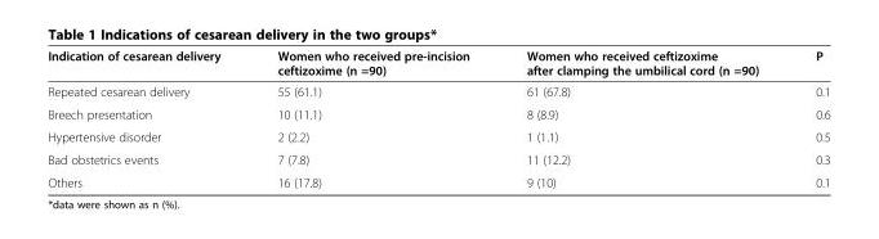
<table><thead><tr><td>Indication of cesarean delivery</td><td>Women who received pre-incision ceftizoxime (n =90)</td><td>Women who received ceftizoxime after clamping the umbilical cord (n =90)</td><td>P</td></tr></thead><tbody><tr><td>Repeated cesarean delivery</td><td>55 (61.1)</td><td>61 (67.8)</td><td>0.1</td></tr><tr><td>Breech presentation</td><td>10 (11.1)</td><td>8 (8.9)</td><td>0.6</td></tr><tr><td>Hypertensive disorder</td><td>2 (2.2)</td><td>1 (1.1)</td><td>0.5</td></tr><tr><td>Bad obstetrics events</td><td>7 (7.8)</td><td>11 (12.2)</td><td>0.3</td></tr><tr><td>Others</td><td>16 (17.8)</td><td>9 (10)</td><td>0.1</td></tr></tbody></table>